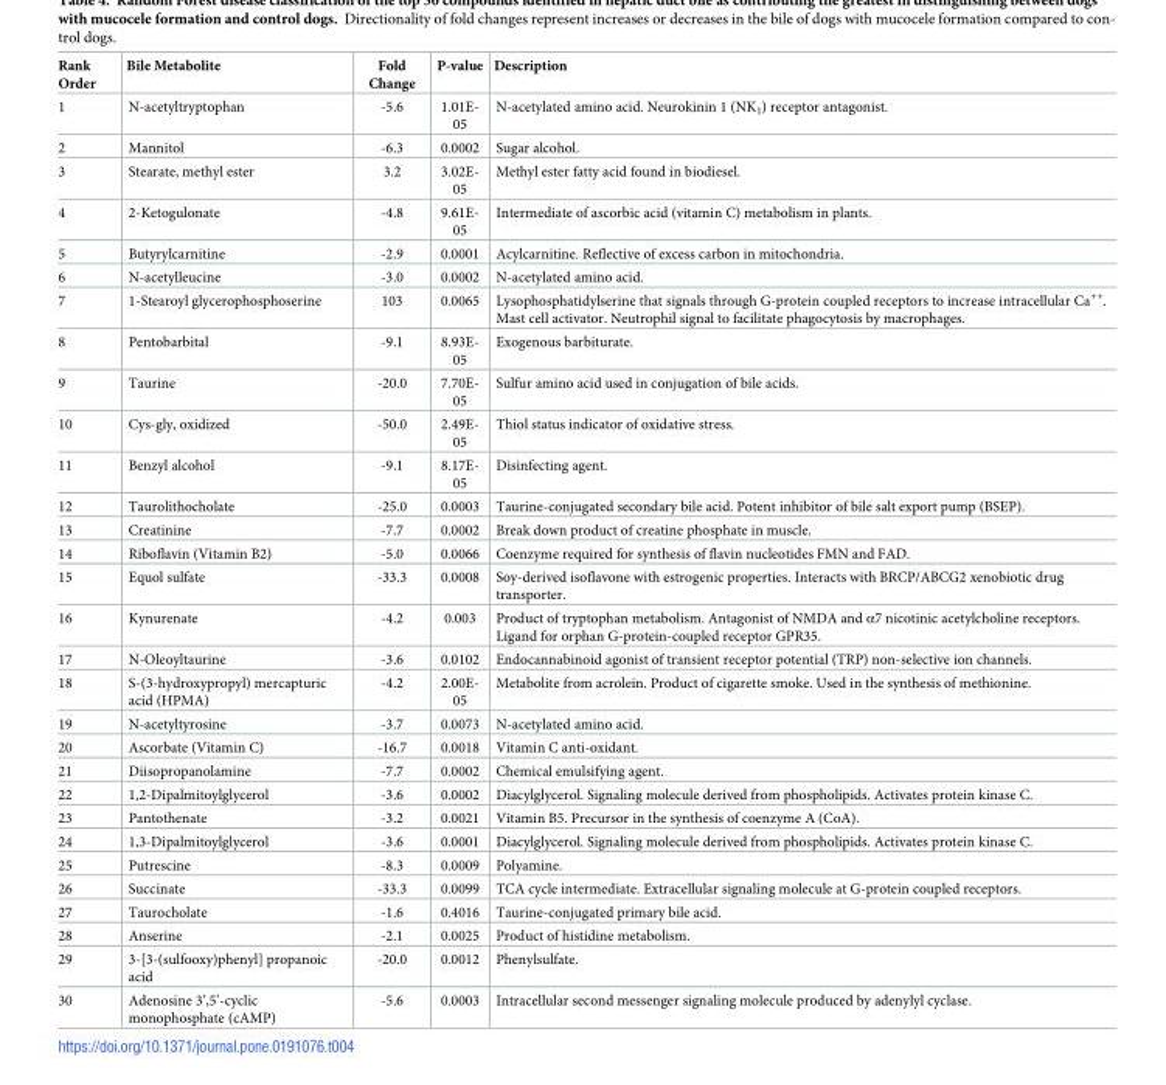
<table><thead><tr><td>Rank Order</td><td>Bile Metabolite</td><td>Fold Change</td><td>P-value</td><td>Description</td></tr></thead><tbody><tr><td>1</td><td>N-acetyltryptophan</td><td>-5.6</td><td>1.01E- 05</td><td>N-acetylated amino acid. Neurokinin 1 (NK<sub>1</sub>) receptor antagonist.</td></tr><tr><td>2</td><td>Mannitol</td><td>-6.3</td><td>0.0002</td><td>Sugar alcohol.</td></tr><tr><td>3</td><td>Stearate, methyl ester</td><td>3.2</td><td>3.02E- 05</td><td>Methyl ester fatty acid found in biodiesel.</td></tr><tr><td>4</td><td>2-Ketogulonate</td><td>-4.8</td><td>9.61E- 05</td><td>Intermediate of ascorbic acid (vitamin C) metabolism in plants.</td></tr><tr><td>5</td><td>Butyrylcarnitine</td><td>-2.9</td><td>0.0001</td><td>Acylcarnitine. Reflective of excess carbon in mitochondria.</td></tr><tr><td>6</td><td>N-acetylleucine</td><td>-3.0</td><td>0.0002</td><td>N-acetylated amino acid.</td></tr><tr><td>7</td><td>1-Stearoyl glycerophosphoserine</td><td>103</td><td>0.0065</td><td>Lysophosphatidylserine that signals through G-protein coupled receptors to increase intracellular Ca<sup>++</sup>. Mast cell activator. Neutrophil signal to facilitate phagocytosis by macrophages.</td></tr><tr><td>8</td><td>Pentobarbital</td><td>-9.1</td><td>8.93E- 05</td><td>Exogenous barbiturate.</td></tr><tr><td>9</td><td>Taurine</td><td>-20.0</td><td>7.70E- 05</td><td>Sulfur amino acid used in conjugation of bile acids.</td></tr><tr><td>10</td><td>Cys-gly, oxidized</td><td>-50.0</td><td>2.49E- 05</td><td>Thiol status indicator of oxidative stress.</td></tr><tr><td>11</td><td>Benzyl alcohol</td><td>-9.1</td><td>8.17E- 05</td><td>Disinfecting agent.</td></tr><tr><td>12</td><td>Taurolithocholate</td><td>-25.0</td><td>0.0003</td><td>Taurine-conjugated secondary bile acid. Potent inhibitor of bile salt export pump (BSEP).</td></tr><tr><td>13</td><td>Creatinine</td><td>-7.7</td><td>0.0002</td><td>Break down product of creatine phosphate in muscle.</td></tr><tr><td>14</td><td>Riboflavin (Vitamin B2)</td><td>-5.0</td><td>0.0066</td><td>Coenzyme required for synthesis of flavin nucleotides FMN and FAD.</td></tr><tr><td>15</td><td>Equol sulfate</td><td>-33.3</td><td>0.0008</td><td>Soy-derived isoflavone with estrogenic properties. Interacts with BRCP/ABCG2 xenobiotic drug transporter.</td></tr><tr><td>16</td><td>Kynurenate</td><td>-4.2</td><td>0.003</td><td>Product of tryptophan metabolism. Antagonist of NMDA and α7 nicotinic acetylcholine receptors. Ligand for orphan G-protein-coupled receptor GPR35.</td></tr><tr><td>17</td><td>N-Oleoyltaurine</td><td>-3.6</td><td>0.0102</td><td>Endocannabinoid agonist of transient receptor potential (TRP) non-selective ion channels.</td></tr><tr><td>18</td><td>S-(3-hydroxypropyl) mercapturic acid (HPMA)</td><td>-4.2</td><td>2.00E- 05</td><td>Metabolite from acrolein. Product of cigarette smoke. Used in the synthesis of methionine.</td></tr><tr><td>19</td><td>N-acetyltyrosine</td><td>-3.7</td><td>0.0073</td><td>N-acetylated amino acid.</td></tr><tr><td>20</td><td>Ascorbate (Vitamin C)</td><td>-16.7</td><td>0.0018</td><td>Vitamin C anti-oxidant.</td></tr><tr><td>21</td><td>Diisopropanolamine</td><td>-7.7</td><td>0.0002</td><td>Chemical emulsifying agent.</td></tr><tr><td>22</td><td>1,2-Dipalmitoylglycerol</td><td>-3.6</td><td>0.0002</td><td>Diacylglycerol. Signaling molecule derived from phospholipids. Activates protein kinase C.</td></tr><tr><td>23</td><td>Pantothenate</td><td>-3.2</td><td>0.0021</td><td>Vitamin B5. Precursor in the synthesis of coenzyme A (CoA).</td></tr><tr><td>24</td><td>1,3-Dipalmitoylglycerol</td><td>-3.6</td><td>0.0001</td><td>Diacylglycerol. Signaling molecule derived from phospholipids. Activates protein kinase C.</td></tr><tr><td>25</td><td>Putrescine</td><td>-8.3</td><td>0.0009</td><td>Polyamine.</td></tr><tr><td>26</td><td>Succinate</td><td>-33.3</td><td>0.0099</td><td>TCA cycle intermediate. Extracellular signaling molecule at G-protein coupled receptors.</td></tr><tr><td>27</td><td>Taurocholate</td><td>-1.6</td><td>0.4016</td><td>Taurine-conjugated primary bile acid.</td></tr><tr><td>28</td><td>Anserine</td><td>-2.1</td><td>0.0025</td><td>Product of histidine metabolism.</td></tr><tr><td>29</td><td>3-[3-(sulfooxy)phenyl] propanoic acid</td><td>-20.0</td><td>0.0012</td><td>Phenylsulfate.</td></tr><tr><td>30</td><td>Adenosine 3’,5’-cyclic monophosphate (cAMP)</td><td>-5.6</td><td>0.0003</td><td>Intracellular second messenger signaling molecule produced by adenylyl cyclase.</td></tr></tbody></table>